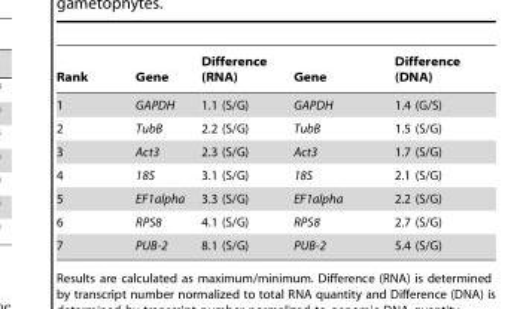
<table><thead><tr><td>Rank</td><td>Gene</td><td>Difference (RNA)</td><td>Gene</td><td>Difference (DNA)</td></tr></thead><tbody><tr><td>1</td><td>GAPDH</td><td>1.1 (S/G)</td><td>GAPDH</td><td>1.4 (G/S)</td></tr><tr><td>2</td><td>TubB</td><td>2.2 (S/G)</td><td>TubB</td><td>1.5 (S/G)</td></tr><tr><td>3</td><td>Act3</td><td>2.3 (S/G)</td><td>Act3</td><td>1.7 (S/G)</td></tr><tr><td>4</td><td>18S</td><td>3.1 (S/G)</td><td>18S</td><td>2.1 (S/G)</td></tr><tr><td>5</td><td>EF1alpha</td><td>3.3 (S/G)</td><td>EF1alpha</td><td>2.2 (S/G)</td></tr><tr><td>6</td><td>RPS8</td><td>4.1 (S/G)</td><td>RPS8</td><td>2.7 (S/G)</td></tr><tr><td>7</td><td>PUB-2</td><td>8.1 (S/G)</td><td>PUB-2</td><td>5.4 (S/G)</td></tr></tbody></table>